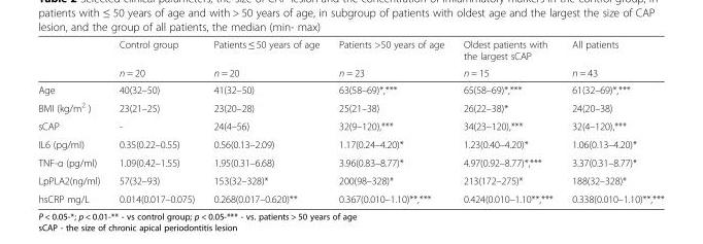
<table><thead><tr><td rowspan="2"></td><td rowspan="2">Control group n = 20</td><td rowspan="2">Patients ≤ 50 years of age n = 20</td><td rowspan="2">Patients &gt;50 years of age n = 23</td><td rowspan="2">Oldest patients with the largest sCAP n = 15</td><td rowspan="2">All patients n = 43</td></tr><tr></tr></thead><tbody><tr><td>Age</td><td>40(32–50)</td><td>41(32–50)</td><td>63(58–69)*,***</td><td>65(58–69)*,***</td><td>61(32–69)*,***</td></tr><tr><td>BMI (kg/m<sup>2</sup> )</td><td>23(21–25)</td><td>23(20–28)</td><td>25(21–38)</td><td>26(22–38)*</td><td>24(20–38)</td></tr><tr><td>sCAP</td><td>-</td><td>24(4–56)</td><td>32(9–120),***</td><td>34(23–120),***</td><td>32(4–120),***</td></tr><tr><td>IL6 (pg/ml)</td><td>0.35(0.22–0.55)</td><td>0.56(0.13–2.09)</td><td>1.17(0.24–4.20)*</td><td>1.23(0.40–4.20)*</td><td>1.06(0.13–4.20)*</td></tr><tr><td>TNF-α (pg/ml)</td><td>1.09(0.42–1.55)</td><td>1.95(0.31–6.68)</td><td>3.96(0.83–8.77)*</td><td>4.97(0.92–8.77)*,***</td><td>3.37(0.31–8.77)*</td></tr><tr><td>LpPLA2(ng/ml)</td><td>57(32–93)</td><td>153(32–328)*</td><td>200(98–328)*</td><td>213(172–275)*</td><td>188(32–328)*</td></tr><tr><td>hsCRP mg/L</td><td>0.014(0.017–0.075)</td><td>0.268(0.017–0.620)**</td><td>0.367(0.010–1.10)**,***</td><td>0.424(0.010–1.10**,***</td><td>0.338(0.010–1.10)**,***</td></tr></tbody></table>